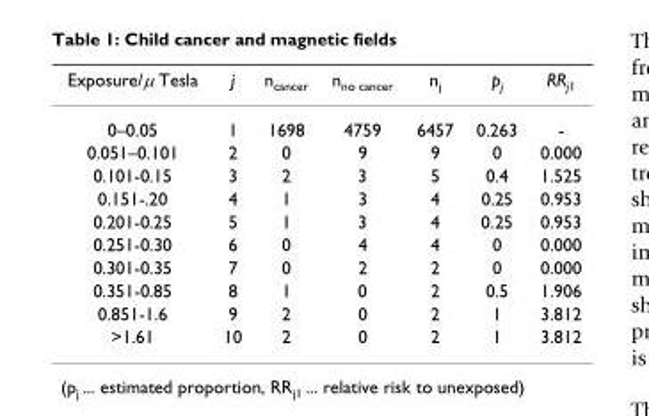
<table><thead><tr><td>Exposure/μ Tesla</td><td>j</td><td>n<sub>cancer</sub></td><td>n<sub>no cancer</sub></td><td>n<sub>j</sub></td><td>p<sub>j</sub></td><td>RR<sub>j1</sub></td></tr></thead><tbody><tr><td>0–0.05</td><td>1</td><td>1698</td><td>4759</td><td>6457</td><td>0.263</td><td>-</td></tr><tr><td>0.051–0.101</td><td>2</td><td>0</td><td>9</td><td>9</td><td>0</td><td>0.000</td></tr><tr><td>0.101-0.15</td><td>3</td><td>2</td><td>3</td><td>5</td><td>0.4</td><td>1.525</td></tr><tr><td>0.151-.20</td><td>4</td><td>1</td><td>3</td><td>4</td><td>0.25</td><td>0.953</td></tr><tr><td>0.201-0.25</td><td>5</td><td>1</td><td>3</td><td>4</td><td>0.25</td><td>0.953</td></tr><tr><td>0.251-0.30</td><td>6</td><td>0</td><td>4</td><td>4</td><td>0</td><td>0.000</td></tr><tr><td>0.301-0.35</td><td>7</td><td>0</td><td>2</td><td>2</td><td>0</td><td>0.000</td></tr><tr><td>0.351-0.85</td><td>8</td><td>1</td><td>0</td><td>2</td><td>0.5</td><td>1.906</td></tr><tr><td>0.851-1.6</td><td>9</td><td>2</td><td>0</td><td>2</td><td>1</td><td>3.812</td></tr><tr><td>&gt;1.61</td><td>10</td><td>2</td><td>0</td><td>2</td><td>1</td><td>3.812</td></tr></tbody></table>